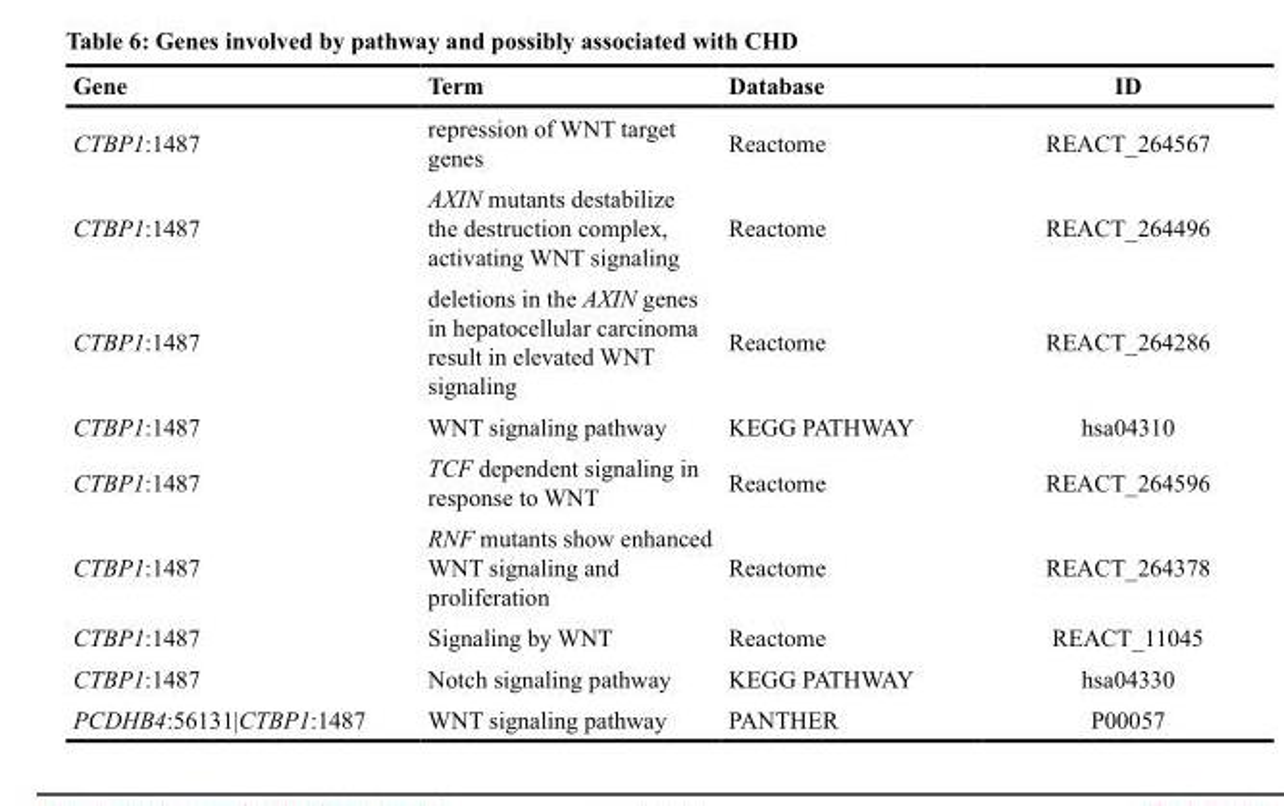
<table><thead><tr><td>Gene</td><td>Term</td><td>Database</td><td>ID</td></tr></thead><tbody><tr><td>CTBP1:1487</td><td>repression of WNT target genes</td><td>Reactome</td><td>REACT_264567</td></tr><tr><td>CTBP1:1487</td><td>AXIN mutants destabilize the destruction complex, activating WNT signaling</td><td>Reactome</td><td>REACT_264496</td></tr><tr><td>CTBP1:1487</td><td>deletions in the AXIN genes in hepatocellular carcinoma result in elevated WNT signaling</td><td>Reactome</td><td>REACT_264286</td></tr><tr><td>CTBP1:1487</td><td>WNT signaling pathway</td><td>KEGG PATHWAY</td><td>hsa04310</td></tr><tr><td>CTBP1:1487</td><td>TCF dependent signaling in response to WNT</td><td>Reactome</td><td>REACT_264596</td></tr><tr><td>CTBP1:1487</td><td>RNF mutants show enhanced WNT signaling and proliferation</td><td>Reactome</td><td>REACT_264378</td></tr><tr><td>CTBP1:1487</td><td>Signaling by WNT</td><td>Reactome</td><td>REACT_11045</td></tr><tr><td>CTBP1:1487</td><td>Notch signaling pathway</td><td>KEGG PATHWAY</td><td>hsa04330</td></tr><tr><td>PCDHB4:56131|CTBP1:1487</td><td>WNT signaling pathway</td><td>PANTHER</td><td>P00057</td></tr></tbody></table>